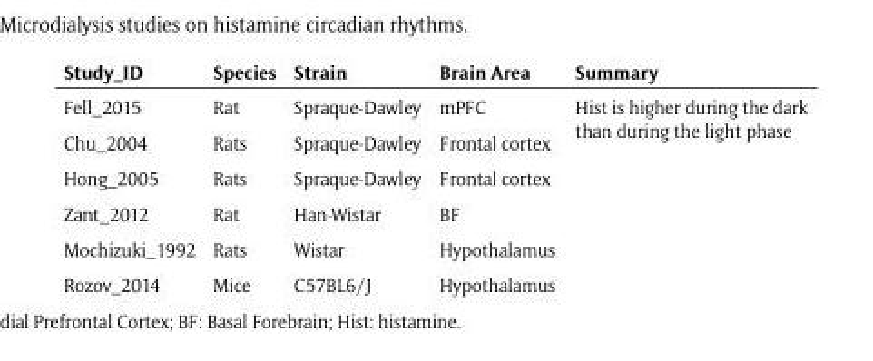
<table><thead><tr><td>Study_ID</td><td>Species</td><td>Strain</td><td>Brain Area</td><td>Summary</td></tr></thead><tbody><tr><td>Fell_2015</td><td>Rat</td><td>Spraque-Dawley</td><td>mPFC</td><td rowspan="6">Hist is higher during the dark than during the light phase</td></tr><tr><td>Chu_2004</td><td>Rats</td><td>Spraque-Dawley</td><td>Frontal cortex</td></tr><tr><td>Hong_2005</td><td>Rats</td><td>Spraque-Dawley</td><td>Frontal cortex</td></tr><tr><td>Zant_2012</td><td>Rat</td><td>Han-Wistar</td><td>BF</td></tr><tr><td>Mochizuki_1992</td><td>Rats</td><td>Wistar</td><td>Hypothalamus</td></tr><tr><td>Rozov_2014</td><td>Mice</td><td>C57BL6/J</td><td>Hypothalamus</td></tr></tbody></table>